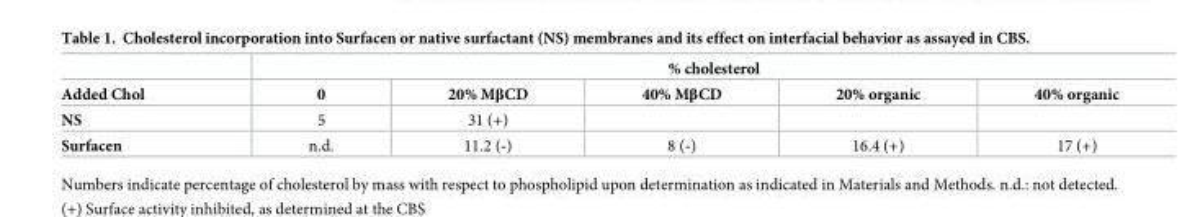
<table><thead><tr><td rowspan="2">Added Chol</td><td colspan="5">% cholesterol</td></tr><tr><td>0</td><td>20% MβCD</td><td>40% MβCD</td><td>20% organic</td><td>40% organic</td></tr></thead><tbody><tr><td>NS</td><td>5</td><td>31 (+)</td><td></td><td></td><td></td></tr><tr><td>Surfacen</td><td>n.d.</td><td>11.2 (-)</td><td>8 (-)</td><td>16.4 (+)</td><td>17 (+)</td></tr></tbody></table>